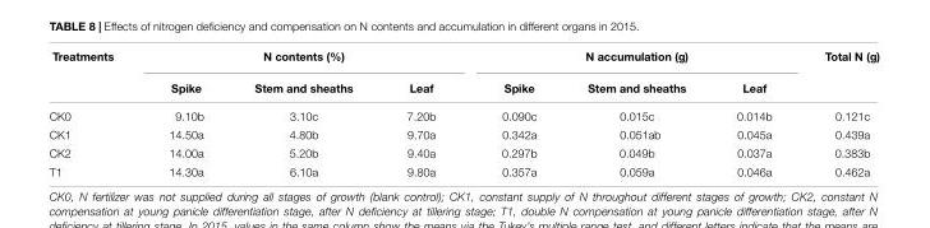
<table><thead><tr><td rowspan="2">Treatments</td><td colspan="3">N contents (%)</td><td colspan="3">N accumulation (g)</td><td rowspan="2">Total N (g)</td></tr><tr><td>Spike</td><td>Stem and sheaths</td><td>Leaf</td><td>Spike</td><td>Stem and sheaths</td><td>Leaf</td></tr></thead><tbody><tr><td>CK0</td><td>9.10b</td><td>3.10c</td><td>7.20b</td><td>0.090c</td><td>0.015c</td><td>0.014b</td><td>0.121c</td></tr><tr><td>CK1</td><td>14.50a</td><td>4.80b</td><td>9.70a</td><td>0.342a</td><td>0.051ab</td><td>0.045a</td><td>0.439a</td></tr><tr><td>CK2</td><td>14.00a</td><td>5.20b</td><td>9.40a</td><td>0.297b</td><td>0.049b</td><td>0.037a</td><td>0.383b</td></tr><tr><td>T1</td><td>14.30a</td><td>6.10a</td><td>9.80a</td><td>0.357a</td><td>0.059a</td><td>0.046a</td><td>0.462a</td></tr></tbody></table>